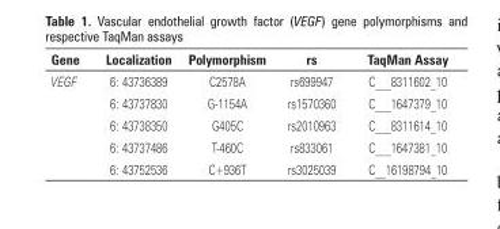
<table><thead><tr><td>Gene</td><td>Localization</td><td>Polymorphism</td><td>rs</td><td>TaqMan Assay</td></tr></thead><tbody><tr><td rowspan="5">VEGF</td><td>6: 43736389</td><td>C2578A</td><td>rs699947</td><td>C___8311602_10</td></tr><tr><td>6: 43737830</td><td>G-1154A</td><td>rs1570360</td><td>C___1647379_10</td></tr><tr><td>6: 43738350</td><td>G405C</td><td>rs2010963</td><td>C___8311614_10</td></tr><tr><td>6: 43737486</td><td>T-460C</td><td>rs833061</td><td>C___1647381_10</td></tr><tr><td>6: 43752536</td><td>C+936T</td><td>rs3025039</td><td>C__16198794_10</td></tr></tbody></table>